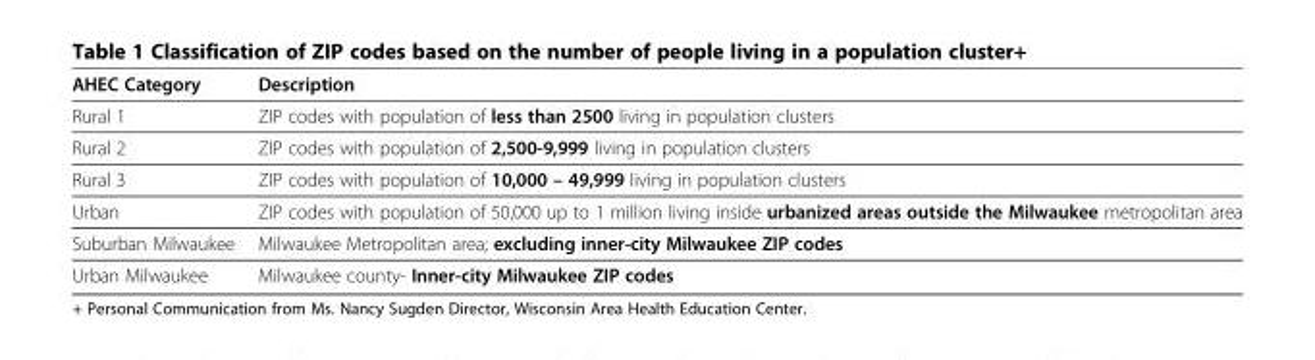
<table><thead><tr><td>AHEC Category</td><td>Description</td></tr></thead><tbody><tr><td>Rural 1</td><td>ZIP codes with population of less than 2500 living in population clusters</td></tr><tr><td>Rural 2</td><td>ZIP codes with population of 2,500-9,999 living in population clusters</td></tr><tr><td>Rural 3</td><td>ZIP codes with population of 10,000 – 49,999 living in population clusters</td></tr><tr><td>Urban</td><td>ZIP codes with population of 50,000 up to 1 million living inside urbanized areas outside the Milwaukee metropolitan area</td></tr><tr><td>Suburban Milwaukee</td><td>Milwaukee Metropolitan area; excluding inner-city Milwaukee ZIP codes</td></tr><tr><td>Urban Milwaukee</td><td>Milwaukee county- Inner-city Milwaukee ZIP codes</td></tr></tbody></table>